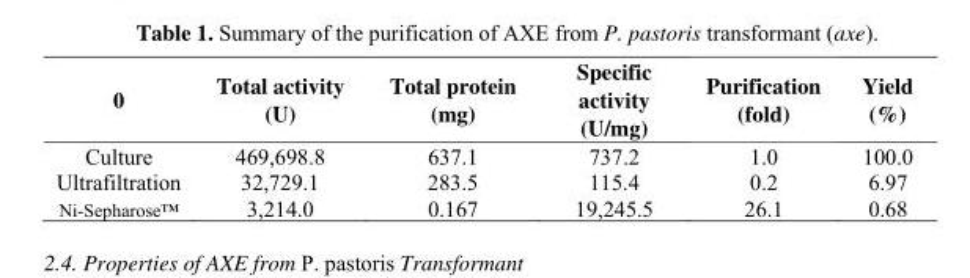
<table><thead><tr><td>0</td><td>Total activity (U)</td><td>Total protein (mg)</td><td>Specific activity (U/mg)</td><td>Purification (fold)</td><td>Yield (%)</td></tr></thead><tbody><tr><td>Culture</td><td>469,698.8</td><td>637.1</td><td>737.2</td><td>1.0</td><td>100.0</td></tr><tr><td>Ultrafiltration</td><td>32,729.1</td><td>283.5</td><td>115.4</td><td>0.2</td><td>6.97</td></tr><tr><td>Ni-Sepharose™</td><td>3,214.0</td><td>0.167</td><td>19,245.5</td><td>26.1</td><td>0.68</td></tr></tbody></table>